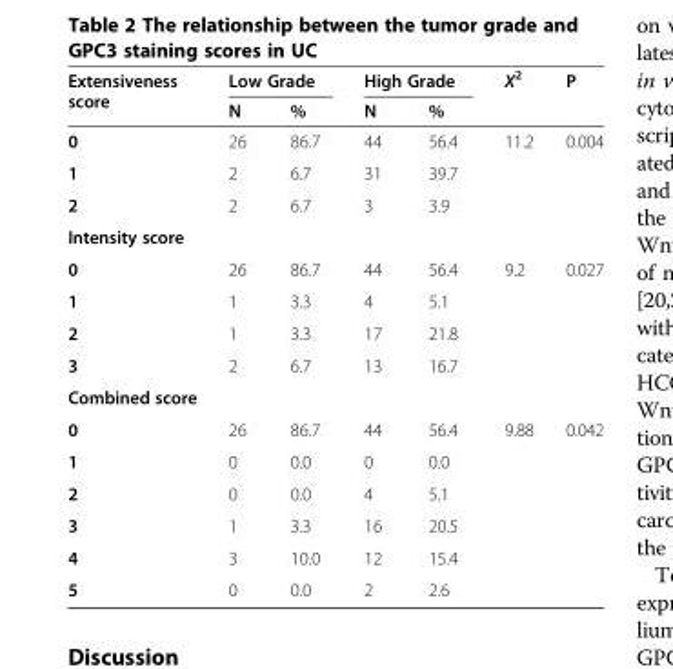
<table><thead><tr><td rowspan="2">Extensiveness score</td><td colspan="2">Low Grade</td><td colspan="2">High Grade</td><td rowspan="2">X<sup>2</sup></td><td rowspan="2">P</td></tr><tr><td>N</td><td>%</td><td>N</td><td>%</td></tr></thead><tbody><tr><td>0</td><td>26</td><td>86.7</td><td>44</td><td>56.4</td><td rowspan="3">11.2</td><td rowspan="3">0.004</td></tr><tr><td>1</td><td>2</td><td>6.7</td><td>31</td><td>39.7</td></tr><tr><td>2</td><td>2</td><td>6.7</td><td>3</td><td>3.9</td></tr><tr><td colspan="7">Intensity score</td></tr><tr><td>0</td><td>26</td><td>86.7</td><td>44</td><td>56.4</td><td rowspan="4">9.2</td><td rowspan="4">0.027</td></tr><tr><td>1</td><td>1</td><td>3.3</td><td>4</td><td>5.1</td></tr><tr><td>2</td><td>1</td><td>3.3</td><td>17</td><td>21.8</td></tr><tr><td>3</td><td>2</td><td>6.7</td><td>13</td><td>16.7</td></tr><tr><td colspan="7">Combined score</td></tr><tr><td>0</td><td>26</td><td>86.7</td><td>44</td><td>56.4</td><td rowspan="6">9.88</td><td rowspan="6">0.042</td></tr><tr><td>1</td><td>0</td><td>0.0</td><td>0</td><td>0.0</td></tr><tr><td>2</td><td>0</td><td>0.0</td><td>4</td><td>5.1</td></tr><tr><td>3</td><td>1</td><td>3.3</td><td>16</td><td>20.5</td></tr><tr><td>4</td><td>3</td><td>10.0</td><td>12</td><td>15.4</td></tr><tr><td>5</td><td>0</td><td>0.0</td><td>2</td><td>2.6</td></tr></tbody></table>